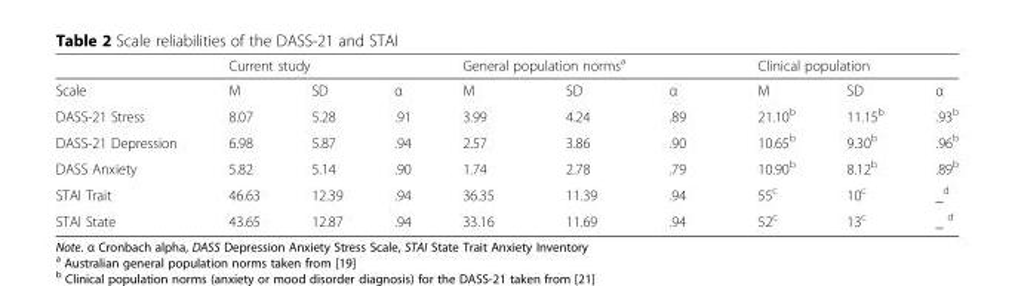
<table><thead><tr><td rowspan="2">Scale</td><td colspan="3">Current study</td><td colspan="3">General population norms<sup>a</sup></td><td colspan="3">Clinical population</td></tr><tr><td>M</td><td>SD</td><td>α</td><td>M</td><td>SD</td><td>α</td><td>M</td><td>SD</td><td>α</td></tr></thead><tbody><tr><td>DASS-21 Stress</td><td>8.07</td><td>5.28</td><td>.91</td><td>3.99</td><td>4.24</td><td>.89</td><td>21.10<sup>b</sup></td><td>11.15<sup>b</sup></td><td>.93<sup>b</sup></td></tr><tr><td>DASS-21 Depression</td><td>6.98</td><td>5.87</td><td>.94</td><td>2.57</td><td>3.86</td><td>.90</td><td>10.65<sup>b</sup></td><td>9.30<sup>b</sup></td><td>.96<sup>b</sup></td></tr><tr><td>DASS Anxiety</td><td>5.82</td><td>5.14</td><td>.90</td><td>1.74</td><td>2.78</td><td>.79</td><td>10.90<sup>b</sup></td><td>8.12<sup>b</sup></td><td>.89<sup>b</sup></td></tr><tr><td>STAI Trait</td><td>46.63</td><td>12.39</td><td>.94</td><td>36.35</td><td>11.39</td><td>.94</td><td>55<sup>c</sup></td><td>10<sup>c</sup></td><td>_<sup>d</sup></td></tr><tr><td>STAI State</td><td>43.65</td><td>12.87</td><td>.94</td><td>33.16</td><td>11.69</td><td>.94</td><td>52<sup>c</sup></td><td>13<sup>c</sup></td><td>_ <sup>d</sup></td></tr></tbody></table>